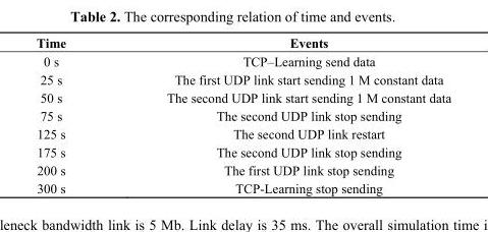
<table><thead><tr><td>Time</td><td>Events</td></tr></thead><tbody><tr><td>0 s</td><td>TCP–Learning send data</td></tr><tr><td>25 s</td><td>The first UDP link start sending 1 M constant data</td></tr><tr><td>50 s</td><td>The second UDP link start sending 1 M constant data</td></tr><tr><td>75 s</td><td>The second UDP link stop sending</td></tr><tr><td>125 s</td><td>The second UDP link restart</td></tr><tr><td>175 s</td><td>The second UDP link stop sending</td></tr><tr><td>200 s</td><td>The first UDP link stop sending</td></tr><tr><td>300 s</td><td>TCP-Learning stop sending</td></tr></tbody></table>